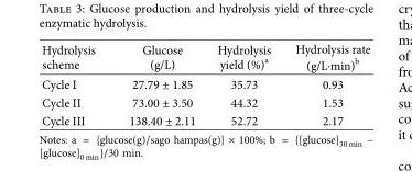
<table><thead><tr><td>Hydrolysis scheme</td><td>Glucose (g/L)</td><td>Hydrolysis yield (%)<sup>a</sup></td><td>Hydrolysis rate (g/L⋅min)b</td></tr></thead><tbody><tr><td>Cycle I</td><td>27.79 ± 1.85</td><td>35.73</td><td>0.93</td></tr><tr><td>Cycle II</td><td>73.00 ± 3.50</td><td>44.32</td><td>1.53</td></tr><tr><td>Cycle III</td><td>138.40 ± 2.11</td><td>52.72</td><td>2.17</td></tr></tbody></table>